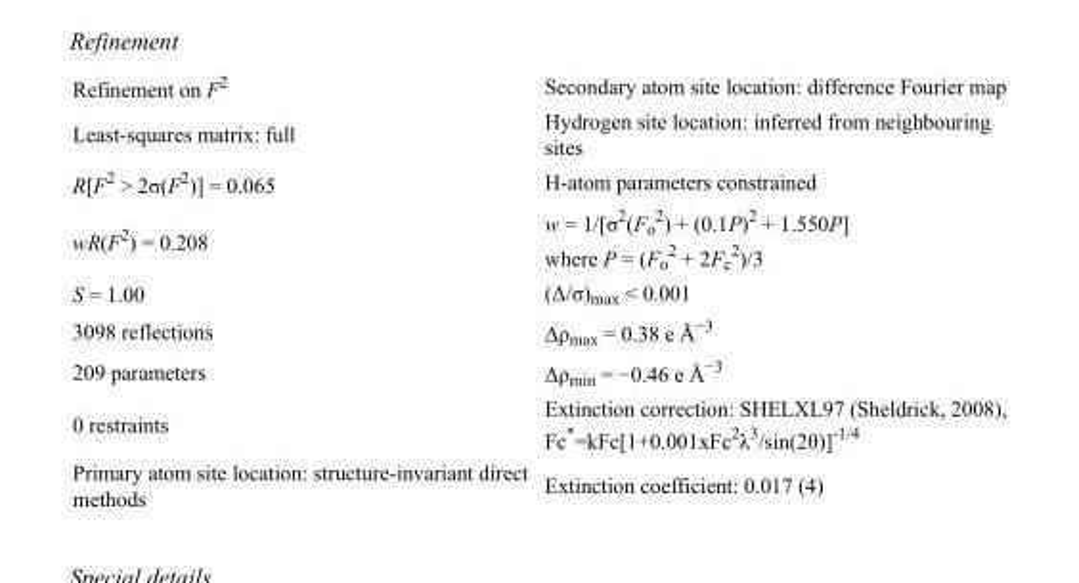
<table><tbody><tr><td>Refinement on F<sup>2</sup></td><td>Secondary atom site location: difference Fourier map</td></tr><tr><td>Least-squares matrix: full</td><td>Hydrogen site location: inferred from neighbouring sites</td></tr><tr><td>R[F<sup>2</sup> &gt; 2σ(F<sup>2</sup>)] = 0.065</td><td>H-atom parameters constrained</td></tr><tr><td>wR(F<sup>2</sup>) = 0.208</td><td>w = 1/[σ<sup>2</sup>(F<sub>o</sub> <sup>2</sup>) + (0.1P)<sup>2</sup> + 1.550P] where P = (F<sub>o</sub> <sup>2</sup> + 2F<sub>c</sub> <sup>2</sup>)/3</td></tr><tr><td>S = 1.00</td><td>(Δ/σ)<sub>max</sub> &lt; 0.001</td></tr><tr><td>3098 reflections</td><td>Δρ<sub>max</sub> = 0.38 e Å<sup>−3</sup></td></tr><tr><td>209 parameters</td><td>Δρ<sub>min</sub> = −0.46 e Å<sup>−3</sup></td></tr><tr><td>0 restraints</td><td>Extinction correction: SHELXL97 (Sheldrick, 2008), Fc*=kFc[1+0.001xFc<sup>2</sup>λ<sup>3</sup>/sin(2θ)]<sup>-1/4</sup></td></tr><tr><td>Primary atom site location: structure-invariant direct methods</td><td>Extinction coefficient: 0.017 (4)</td></tr></tbody></table>